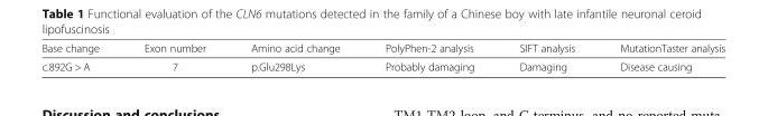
<table><thead><tr><td>Base change</td><td>Exon number</td><td>Amino acid change</td><td>PolyPhen-2 analysis</td><td>SIFT analysis</td><td>MutationTaster analysis</td></tr></thead><tbody><tr><td>c.892G &gt; A</td><td>7</td><td>p.Glu298Lys</td><td>Probably damaging</td><td>Damaging</td><td>Disease causing</td></tr></tbody></table>